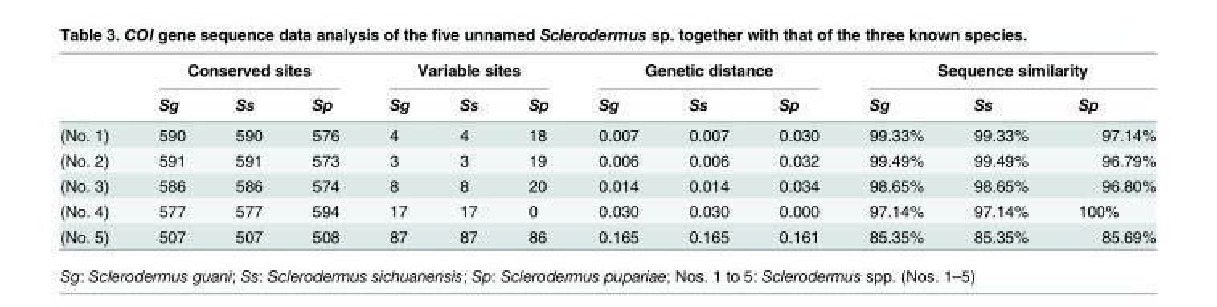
<table><thead><tr><td rowspan="2"></td><td colspan="3">Conserved sites</td><td colspan="3">Variable sites</td><td colspan="3">Genetic distance</td><td colspan="3">Sequence similarity</td></tr><tr><td>Sg</td><td>Ss</td><td>Sp</td><td>Sg</td><td>Ss</td><td>Sp</td><td>Sg</td><td>Ss</td><td>Sp</td><td>Sg</td><td>Ss</td><td>Sp</td></tr></thead><tbody><tr><td>(No. 1)</td><td>590</td><td>590</td><td>576</td><td>4</td><td>4</td><td>18</td><td>0.007</td><td>0.007</td><td>0.030</td><td>99.33%</td><td>99.33%</td><td>97.14%</td></tr><tr><td>(No. 2)</td><td>591</td><td>591</td><td>573</td><td>3</td><td>3</td><td>19</td><td>0.006</td><td>0.006</td><td>0.032</td><td>99.49%</td><td>99.49%</td><td>96.79%</td></tr><tr><td>(No. 3)</td><td>586</td><td>586</td><td>574</td><td>8</td><td>8</td><td>20</td><td>0.014</td><td>0.014</td><td>0.034</td><td>98.65%</td><td>98.65%</td><td>96.80%</td></tr><tr><td>(No. 4)</td><td>577</td><td>577</td><td>594</td><td>17</td><td>17</td><td>0</td><td>0.030</td><td>0.030</td><td>0.000</td><td>97.14%</td><td>97.14%</td><td>100%</td></tr><tr><td>(No. 5)</td><td>507</td><td>507</td><td>508</td><td>87</td><td>87</td><td>86</td><td>0.165</td><td>0.165</td><td>0.161</td><td>85.35%</td><td>85.35%</td><td>85.69%</td></tr></tbody></table>